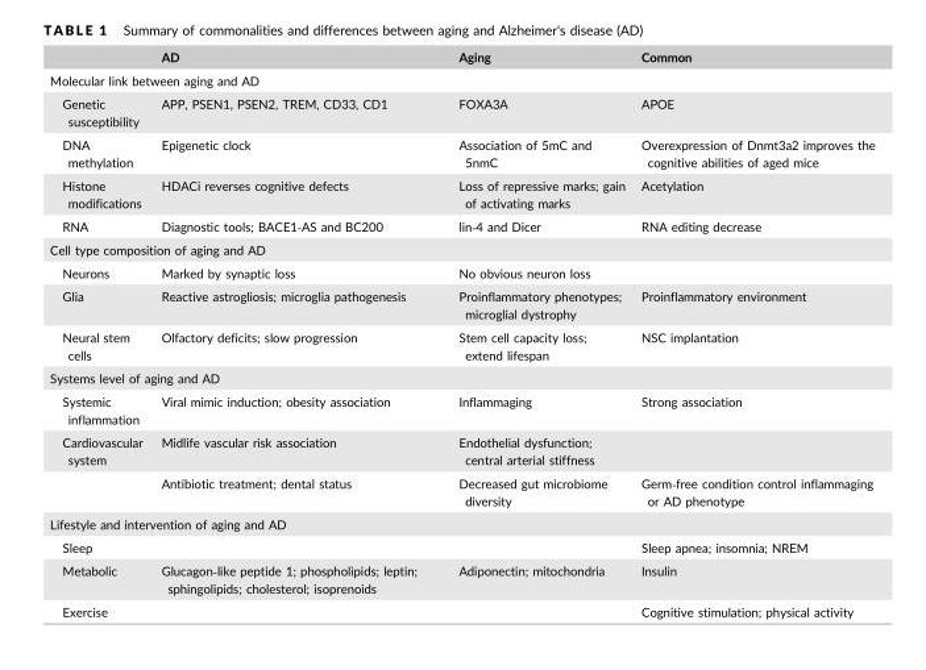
<table><thead><tr><td></td><td>AD</td><td>Aging</td><td>Common</td></tr></thead><tbody><tr><td colspan="4">Molecular link between aging and AD</td></tr><tr><td>Genetic susceptibility</td><td>APP, PSEN1, PSEN2, TREM, CD33, CD1</td><td>FOXA3A</td><td>APOE</td></tr><tr><td>DNA methylation</td><td>Epigenetic clock</td><td>Association of 5mC and 5nmC</td><td>Overexpression of Dnmt3a2 improves the cognitive abilities of aged mice</td></tr><tr><td>Histone modifications</td><td>HDACi reverses cognitive defects</td><td>Loss of repressive marks; gain of activating marks</td><td>Acetylation</td></tr><tr><td>RNA</td><td>Diagnostic tools; BACE1‐AS and BC200</td><td>lin‐4 and Dicer</td><td>RNA editing decrease</td></tr><tr><td colspan="4">Cell type composition of aging and AD</td></tr><tr><td>Neurons</td><td>Marked by synaptic loss</td><td>No obvious neuron loss</td><td></td></tr><tr><td>Glia</td><td>Reactive astrogliosis; microglia pathogenesis</td><td>Proinflammatory phenotypes; microglial dystrophy</td><td>Proinflammatory environment</td></tr><tr><td>Neural stem cells</td><td>Olfactory deficits; slow progression</td><td>Stem cell capacity loss; extend lifespan</td><td>NSC implantation</td></tr><tr><td colspan="4">Systems level of aging and AD</td></tr><tr><td>Systemic inflammation</td><td>Viral mimic induction; obesity association</td><td>Inflammaging</td><td>Strong association</td></tr><tr><td rowspan="2">Cardiovascular system</td><td>Midlife vascular risk association</td><td>Endothelial dysfunction; central arterial stiffness</td><td></td></tr><tr><td>Antibiotic treatment; dental status</td><td>Decreased gut microbiome diversity</td><td>Germ‐free condition control inflammaging or AD phenotype</td></tr><tr><td colspan="4">Lifestyle and intervention of aging and AD</td></tr><tr><td>Sleep</td><td></td><td></td><td>Sleep apnea; insomnia; NREM</td></tr><tr><td>Metabolic</td><td>Glucagon‐like peptide 1; phospholipids; leptin; sphingolipids; cholesterol; isoprenoids</td><td>Adiponectin; mitochondria</td><td>Insulin</td></tr><tr><td>Exercise</td><td></td><td></td><td>Cognitive stimulation; physical activity</td></tr></tbody></table>